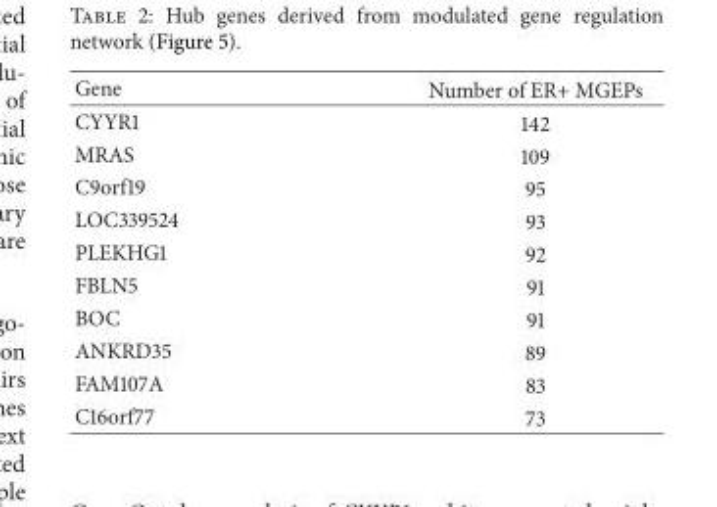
<table><thead><tr><td>Gene</td><td>Number of ER+ MGEPs</td></tr></thead><tbody><tr><td>CYYR1</td><td>142</td></tr><tr><td>MRAS</td><td>109</td></tr><tr><td>C9orf19</td><td>95</td></tr><tr><td>LOC339524</td><td>93</td></tr><tr><td>PLEKHG1</td><td>92</td></tr><tr><td>FBLN5</td><td>91</td></tr><tr><td>BOC</td><td>91</td></tr><tr><td>ANKRD35</td><td>89</td></tr><tr><td>FAM107A</td><td>83</td></tr><tr><td>C16orf77</td><td>73</td></tr></tbody></table>